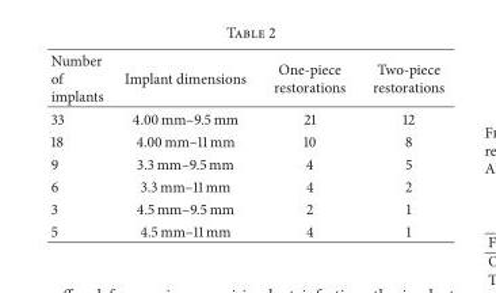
<table><thead><tr><td>Number of implants</td><td>Implant dimensions</td><td>One-piece restorations</td><td>Two-piece restorations</td></tr></thead><tbody><tr><td>33</td><td>4.00 mm–9.5 mm</td><td>21</td><td>12</td></tr><tr><td>18</td><td>4.00 mm–11 mm</td><td>10</td><td>8</td></tr><tr><td>9</td><td>3.3 mm–9.5 mm</td><td>4</td><td>5</td></tr><tr><td>6</td><td>3.3 mm–11 mm</td><td>4</td><td>2</td></tr><tr><td>3</td><td>4.5 mm–9.5 mm</td><td>2</td><td>1</td></tr><tr><td>5</td><td>4.5 mm–11 mm</td><td>4</td><td>1</td></tr></tbody></table>